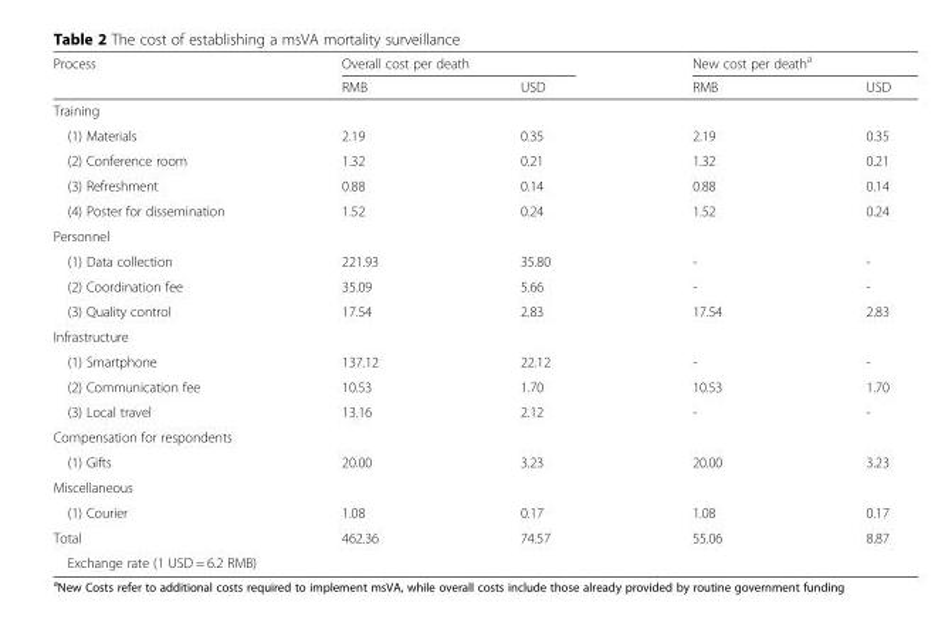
<table><thead><tr><td rowspan="2">Process</td><td colspan="2">Overall cost per death</td><td colspan="2">New cost per death<sup>a</sup></td></tr><tr><td>RMB</td><td>USD</td><td>RMB</td><td>USD</td></tr></thead><tbody><tr><td colspan="5">Training</td></tr><tr><td>(1) Materials</td><td>2.19</td><td>0.35</td><td>2.19</td><td>0.35</td></tr><tr><td>(2) Conference room</td><td>1.32</td><td>0.21</td><td>1.32</td><td>0.21</td></tr><tr><td>(3) Refreshment</td><td>0.88</td><td>0.14</td><td>0.88</td><td>0.14</td></tr><tr><td>(4) Poster for dissemination</td><td>1.52</td><td>0.24</td><td>1.52</td><td>0.24</td></tr><tr><td colspan="5">Personnel</td></tr><tr><td>(1) Data collection</td><td>221.93</td><td>35.80</td><td>-</td><td>-</td></tr><tr><td>(2) Coordination fee</td><td>35.09</td><td>5.66</td><td>-</td><td>-</td></tr><tr><td>(3) Quality control</td><td>17.54</td><td>2.83</td><td>17.54</td><td>2.83</td></tr><tr><td colspan="5">Infrastructure</td></tr><tr><td>(1) Smartphone</td><td>137.12</td><td>22.12</td><td>-</td><td>-</td></tr><tr><td>(2) Communication fee</td><td>10.53</td><td>1.70</td><td>10.53</td><td>1.70</td></tr><tr><td>(3) Local travel</td><td>13.16</td><td>2.12</td><td>-</td><td>-</td></tr><tr><td colspan="5">Compensation for respondents</td></tr><tr><td>(1) Gifts</td><td>20.00</td><td>3.23</td><td>20.00</td><td>3.23</td></tr><tr><td colspan="5">Miscellaneous</td></tr><tr><td>(1) Courier</td><td>1.08</td><td>0.17</td><td>1.08</td><td>0.17</td></tr><tr><td>Total</td><td>462.36</td><td>74.57</td><td>55.06</td><td>8.87</td></tr><tr><td colspan="5">Exchange rate (1 USD = 6.2 RMB)</td></tr></tbody></table>